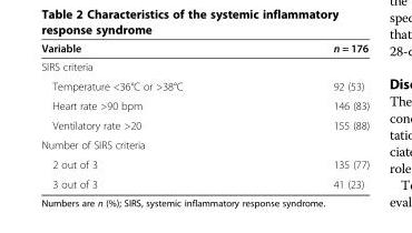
<table><thead><tr><td>Variable</td><td>n = 176</td></tr></thead><tbody><tr><td colspan="2">SIRS criteria</td></tr><tr><td>Temperature &lt;36°C or &gt;38°C</td><td>92 (53)</td></tr><tr><td>Heart rate &gt;90 bpm</td><td>146 (83)</td></tr><tr><td>Ventilatory rate &gt;20</td><td>155 (88)</td></tr><tr><td colspan="2">Number of SIRS criteria</td></tr><tr><td>2 out of 3</td><td>135 (77)</td></tr><tr><td>3 out of 3</td><td>41 (23)</td></tr></tbody></table>